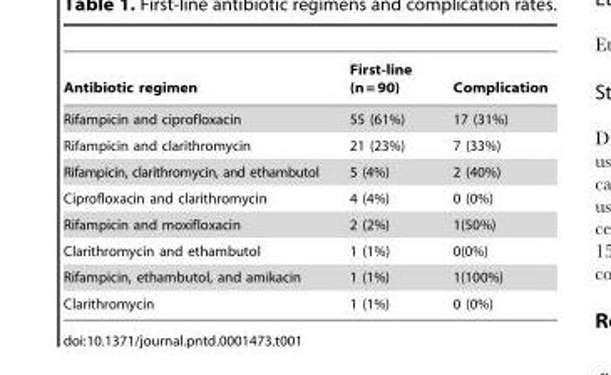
<table><thead><tr><td>Antibiotic regimen</td><td>First-line (n = 90)</td><td>Complication</td></tr></thead><tbody><tr><td>Rifampicin and ciprofloxacin</td><td>55 (61%)</td><td>17 (31%)</td></tr><tr><td>Rifampicin and clarithromycin</td><td>21 (23%)</td><td>7 (33%)</td></tr><tr><td>Rifampicin, clarithromycin, and ethambutol</td><td>5 (4%)</td><td>2 (40%)</td></tr><tr><td>Ciprofloxacin and clarithromycin</td><td>4 (4%)</td><td>0 (0%)</td></tr><tr><td>Rifampicin and moxifloxacin</td><td>2 (2%)</td><td>1(50%)</td></tr><tr><td>Clarithromycin and ethambutol</td><td>1 (1%)</td><td>0(0%)</td></tr><tr><td>Rifampicin, ethambutol, and amikacin</td><td>1 (1%)</td><td>1(100%)</td></tr><tr><td>Clarithromycin</td><td>1 (1%)</td><td>0 (0%)</td></tr></tbody></table>